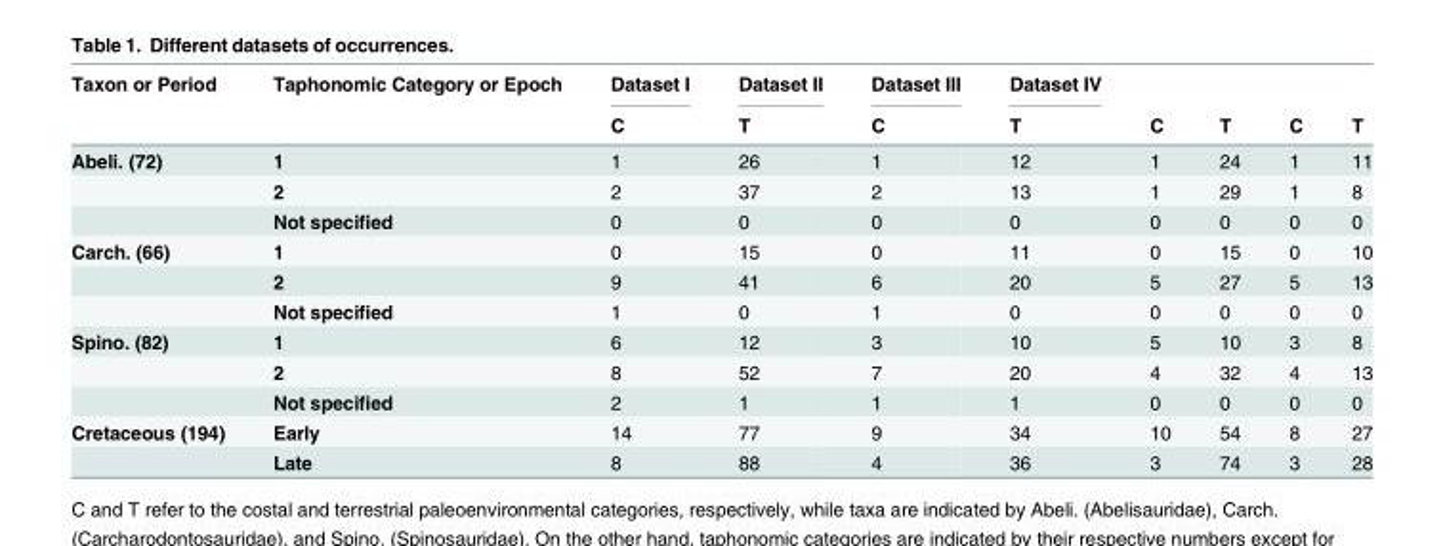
<table><thead><tr><td rowspan="2">Taxon or Period</td><td rowspan="2">Taphonomic Category or Epoch</td><td rowspan="2">Dataset I C</td><td rowspan="2">Dataset II T</td><td rowspan="2">Dataset III C</td><td rowspan="2">Dataset IV T</td><td rowspan="2">C</td><td rowspan="2">T</td><td rowspan="2">C</td><td rowspan="2">T</td></tr><tr></tr></thead><tbody><tr><td rowspan="3">Abeli. (72)</td><td>1</td><td>1</td><td>26</td><td>1</td><td>12</td><td>1</td><td>24</td><td>1</td><td>11</td></tr><tr><td>2</td><td>2</td><td>37</td><td>2</td><td>13</td><td>1</td><td>29</td><td>1</td><td>8</td></tr><tr><td>Not specified</td><td>0</td><td>0</td><td>0</td><td>0</td><td>0</td><td>0</td><td>0</td><td>0</td></tr><tr><td rowspan="3">Carch. (66)</td><td>1</td><td>0</td><td>15</td><td>0</td><td>11</td><td>0</td><td>15</td><td>0</td><td>10</td></tr><tr><td>2</td><td>9</td><td>41</td><td>6</td><td>20</td><td>5</td><td>27</td><td>5</td><td>13</td></tr><tr><td>Not specified</td><td>1</td><td>0</td><td>1</td><td>0</td><td>0</td><td>0</td><td>0</td><td>0</td></tr><tr><td rowspan="3">Spino. (82)</td><td>1</td><td>6</td><td>12</td><td>3</td><td>10</td><td>5</td><td>10</td><td>3</td><td>8</td></tr><tr><td>2</td><td>8</td><td>52</td><td>7</td><td>20</td><td>4</td><td>32</td><td>4</td><td>13</td></tr><tr><td>Not specified</td><td>2</td><td>1</td><td>1</td><td>1</td><td>0</td><td>0</td><td>0</td><td>0</td></tr><tr><td rowspan="2">Cretaceous (194)</td><td>Early</td><td>14</td><td>77</td><td>9</td><td>34</td><td>10</td><td>54</td><td>8</td><td>27</td></tr><tr><td>Late</td><td>8</td><td>88</td><td>4</td><td>36</td><td>3</td><td>74</td><td>3</td><td>28</td></tr></tbody></table>